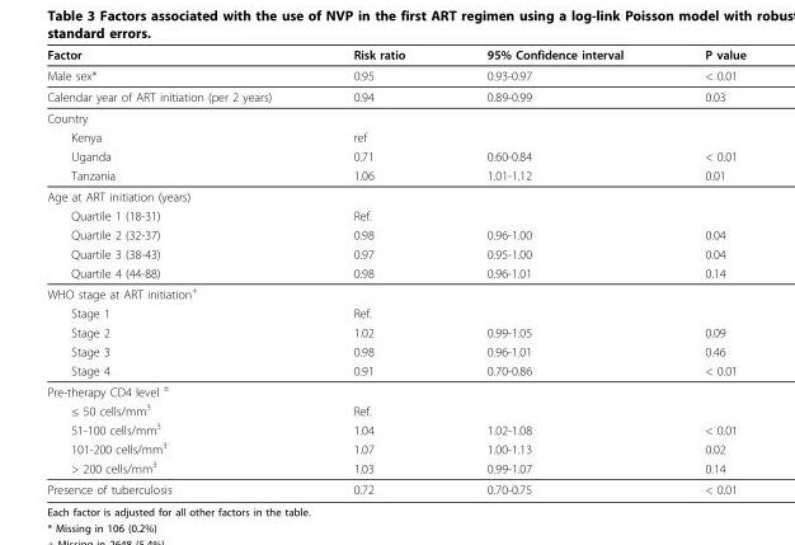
<table><thead><tr><td>Factor</td><td>Risk ratio</td><td>95% Confidence interval</td><td>P value</td></tr></thead><tbody><tr><td>Male sex*</td><td>0.95</td><td>0.93-0.97</td><td>&lt; 0.01</td></tr><tr><td>Calendar year of ART initiation (per 2 years)</td><td>0.94</td><td>0.89-0.99</td><td>0.03</td></tr><tr><td colspan="4">Country</td></tr><tr><td>Kenya</td><td>ref</td><td></td><td></td></tr><tr><td>Uganda</td><td>0.71</td><td>0.60-0.84</td><td>&lt; 0.01</td></tr><tr><td>Tanzania</td><td>1.06</td><td>1.01-1.12</td><td>0.01</td></tr><tr><td colspan="4">Age at ART initiation (years)</td></tr><tr><td>Quartile 1 (18-31)</td><td>Ref.</td><td></td><td></td></tr><tr><td>Quartile 2 (32-37)</td><td>0.98</td><td>0.96-1.00</td><td>0.04</td></tr><tr><td>Quartile 3 (38-43)</td><td>0.97</td><td>0.95-1.00</td><td>0.04</td></tr><tr><td>Quartile 4 (44-88)</td><td>0.98</td><td>0.96-1.01</td><td>0.14</td></tr><tr><td colspan="4">WHO stage at ART initiation<sup>+</sup></td></tr><tr><td>Stage 1</td><td>Ref.</td><td></td><td></td></tr><tr><td>Stage 2</td><td>1.02</td><td>0.99-1.05</td><td>0.09</td></tr><tr><td>Stage 3</td><td>0.98</td><td>0.96-1.01</td><td>0.46</td></tr><tr><td>Stage 4</td><td>0.91</td><td>0.70-0.86</td><td>&lt; 0.01</td></tr><tr><td colspan="4">Pre-therapy CD4 level <sup>±</sup></td></tr><tr><td>≤ 50 cells/mm<sup>3</sup></td><td>Ref.</td><td></td><td></td></tr><tr><td>51-100 cells/mm<sup>3</sup></td><td>1.04</td><td>1.02-1.08</td><td>&lt; 0.01</td></tr><tr><td>101-200 cells/mm<sup>3</sup></td><td>1.07</td><td>1.00-1.13</td><td>0.02</td></tr><tr><td>&gt; 200 cells/mm<sup>3</sup></td><td>1.03</td><td>0.99-1.07</td><td>0.14</td></tr><tr><td>Presence of tuberculosis</td><td>0.72</td><td>0.70-0.75</td><td>&lt; 0.01</td></tr></tbody></table>